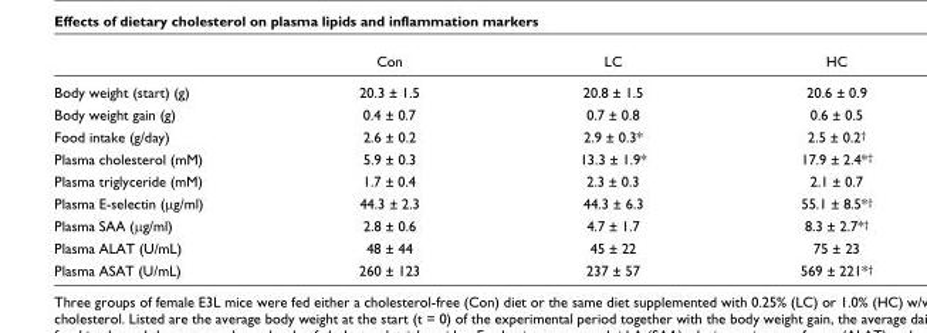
<table><thead><tr><td></td><td>Con</td><td>LC</td><td>HC</td></tr></thead><tbody><tr><td>Body weight (start) (g)</td><td>20.3 ± 1.5</td><td>20.8 ± 1.5</td><td>20.6 ± 0.9</td></tr><tr><td>Body weight gain (g)</td><td>0.4 ± 0.7</td><td>0.7 ± 0.8</td><td>0.6 ± 0.5</td></tr><tr><td>Food intake (g/day)</td><td>2.6 ± 0.2</td><td>2.9 ± 0.3*</td><td>2.5 ± 0.2<sup>†</sup></td></tr><tr><td>Plasma cholesterol (mM)</td><td>5.9 ± 0.3</td><td>13.3 ± 1.9*</td><td>17.9 ± 2.4*<sup>†</sup></td></tr><tr><td>Plasma triglyceride (mM)</td><td>1.7 ± 0.4</td><td>2.3 ± 0.3</td><td>2.1 ± 0.7</td></tr><tr><td>Plasma E-selectin (μg/ml)</td><td>44.3 ± 2.3</td><td>44.3 ± 6.3</td><td>55.1 ± 8.5*<sup>†</sup></td></tr><tr><td>Plasma SAA (μg/ml)</td><td>2.8 ± 0.6</td><td>4.7 ± 1.7</td><td>8.3 ± 2.7*<sup>†</sup></td></tr><tr><td>Plasma ALAT (U/mL)</td><td>48 ± 44</td><td>45 ± 22</td><td>75 ± 23</td></tr><tr><td>Plasma ASAT (U/mL)</td><td>260 ± 123</td><td>237 ± 57</td><td>569 ± 221*<sup>†</sup></td></tr></tbody></table>